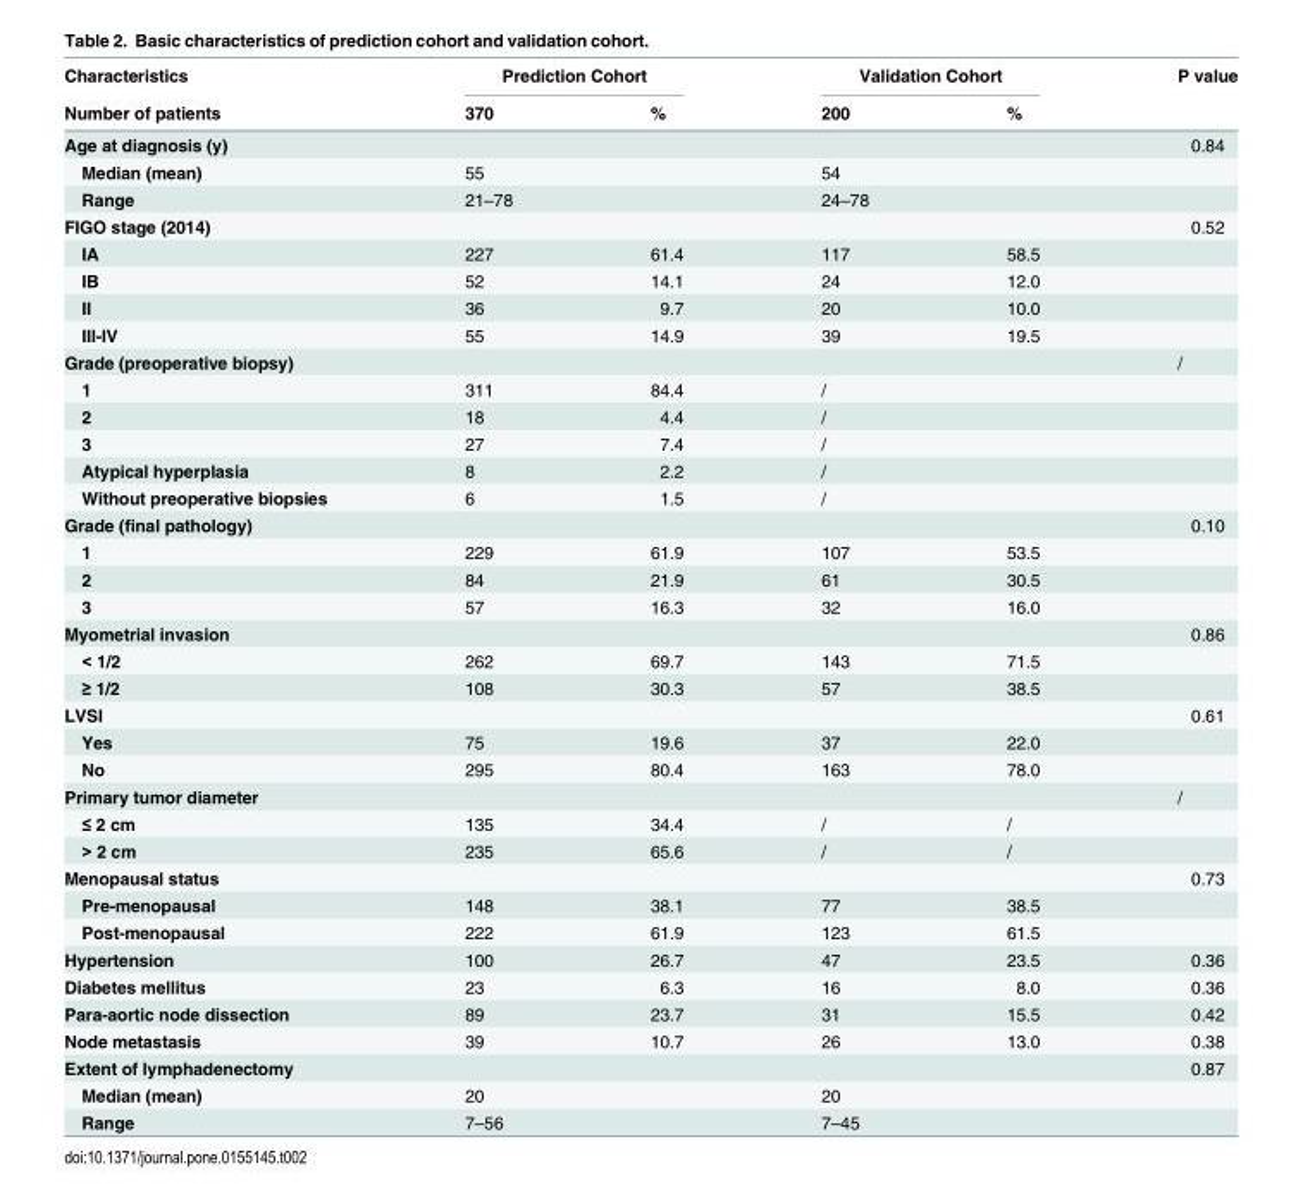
<table><thead><tr><td rowspan="2">Characteristics Number of patients</td><td colspan="2">Prediction Cohort</td><td colspan="2">Validation Cohort</td><td rowspan="2">P value</td></tr><tr><td>370</td><td>%</td><td>200</td><td>%</td></tr></thead><tbody><tr><td>Age at diagnosis (y)</td><td></td><td></td><td></td><td></td><td>0.84</td></tr><tr><td>Median (mean)</td><td>55</td><td></td><td>54</td><td></td><td></td></tr><tr><td>Range</td><td>21–78</td><td></td><td>24–78</td><td></td><td></td></tr><tr><td>FIGO stage (2014)</td><td></td><td></td><td></td><td></td><td>0.52</td></tr><tr><td>IA</td><td>227</td><td>61.4</td><td>117</td><td>58.5</td><td></td></tr><tr><td>IB</td><td>52</td><td>14.1</td><td>24</td><td>12.0</td><td></td></tr><tr><td>II</td><td>36</td><td>9.7</td><td>20</td><td>10.0</td><td></td></tr><tr><td>III-IV</td><td>55</td><td>14.9</td><td>39</td><td>19.5</td><td></td></tr><tr><td>Grade (preoperative biopsy)</td><td></td><td></td><td></td><td></td><td>/</td></tr><tr><td>1</td><td>311</td><td>84.4</td><td>/</td><td></td><td></td></tr><tr><td>2</td><td>18</td><td>4.4</td><td>/</td><td></td><td></td></tr><tr><td>3</td><td>27</td><td>7.4</td><td>/</td><td></td><td></td></tr><tr><td>Atypical hyperplasia</td><td>8</td><td>2.2</td><td>/</td><td></td><td></td></tr><tr><td>Without preoperative biopsies</td><td>6</td><td>1.5</td><td>/</td><td></td><td></td></tr><tr><td>Grade (final pathology)</td><td></td><td></td><td></td><td></td><td>0.10</td></tr><tr><td>1</td><td>229</td><td>61.9</td><td>107</td><td>53.5</td><td></td></tr><tr><td>2</td><td>84</td><td>21.9</td><td>61</td><td>30.5</td><td></td></tr><tr><td>3</td><td>57</td><td>16.3</td><td>32</td><td>16.0</td><td></td></tr><tr><td>Myometrial invasion</td><td></td><td></td><td></td><td></td><td>0.86</td></tr><tr><td>&lt; 1/2</td><td>262</td><td>69.7</td><td>143</td><td>71.5</td><td></td></tr><tr><td>≥ 1/2</td><td>108</td><td>30.3</td><td>57</td><td>38.5</td><td></td></tr><tr><td>LVSI</td><td></td><td></td><td></td><td></td><td>0.61</td></tr><tr><td>Yes</td><td>75</td><td>19.6</td><td>37</td><td>22.0</td><td></td></tr><tr><td>No</td><td>295</td><td>80.4</td><td>163</td><td>78.0</td><td></td></tr><tr><td>Primary tumor diameter</td><td></td><td></td><td></td><td></td><td>/</td></tr><tr><td>≤ 2 cm</td><td>135</td><td>34.4</td><td>/</td><td>/</td><td></td></tr><tr><td>&gt; 2 cm</td><td>235</td><td>65.6</td><td>/</td><td>/</td><td></td></tr><tr><td>Menopausal status</td><td></td><td></td><td></td><td></td><td>0.73</td></tr><tr><td>Pre-menopausal</td><td>148</td><td>38.1</td><td>77</td><td>38.5</td><td></td></tr><tr><td>Post-menopausal</td><td>222</td><td>61.9</td><td>123</td><td>61.5</td><td></td></tr><tr><td>Hypertension</td><td>100</td><td>26.7</td><td>47</td><td>23.5</td><td>0.36</td></tr><tr><td>Diabetes mellitus</td><td>23</td><td>6.3</td><td>16</td><td>8.0</td><td>0.36</td></tr><tr><td>Para-aortic node dissection</td><td>89</td><td>23.7</td><td>31</td><td>15.5</td><td>0.42</td></tr><tr><td>Node metastasis</td><td>39</td><td>10.7</td><td>26</td><td>13.0</td><td>0.38</td></tr><tr><td>Extent of lymphadenectomy</td><td></td><td></td><td></td><td></td><td>0.87</td></tr><tr><td>Median (mean)</td><td>20</td><td></td><td>20</td><td></td><td></td></tr><tr><td>Range</td><td>7–56</td><td></td><td>7–45</td><td></td><td></td></tr></tbody></table>